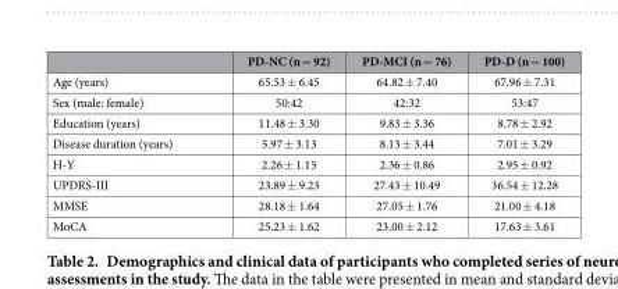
<table><thead><tr><td></td><td>PD-NC (n = 92)</td><td>PD-MCI (n = 76)</td><td>PD-D (n = 100)</td></tr></thead><tbody><tr><td>Age (years)</td><td>65.53 ± 6.45</td><td>64.82 ± 7.40</td><td>67.96 ± 7.31</td></tr><tr><td>Sex (male: female)</td><td>50:42</td><td>42:32</td><td>53:47</td></tr><tr><td>Education (years)</td><td>11.48 ± 3.30</td><td>9.83 ± 3.36</td><td>8.78 ± 2.92</td></tr><tr><td>Disease duration (years)</td><td>5.97 ± 3.13</td><td>8.13 ± 3.44</td><td>7.01 ± 3.29</td></tr><tr><td>H-Y</td><td>2.26 ± 1.15</td><td>2.36 ± 0.86</td><td>2.95 ± 0.92</td></tr><tr><td>UPDRS-III</td><td>23.89 ± 9.23</td><td>27.43 ± 10.49</td><td>36.54 ± 12.28</td></tr><tr><td>MMSE</td><td>28.18 ± 1.64</td><td>27.05 ± 1.76</td><td>21.00 ± 4.18</td></tr><tr><td>MoCA</td><td>25.23 ± 1.62</td><td>23.00 ± 2.12</td><td>17.63 ± 3.61</td></tr></tbody></table>